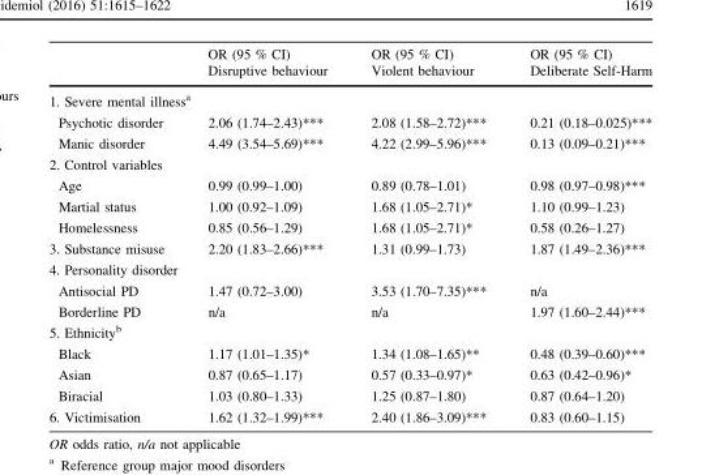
<table><thead><tr><td rowspan="2"></td><td rowspan="2">OR (95 % CI) Disruptive behaviour</td><td rowspan="2">OR (95 % CI) Violent behaviour</td><td rowspan="2">OR (95 % CI) Deliberate Self-Harm</td></tr><tr></tr></thead><tbody><tr><td colspan="4">1. Severe mental illness<sup>a</sup></td></tr><tr><td>Psychotic disorder</td><td>2.06 (1.74–2.43)***</td><td>2.08 (1.58–2.72)***</td><td>0.21 (0.18–0.025)***</td></tr><tr><td>Manic disorder</td><td>4.49 (3.54–5.69)***</td><td>4.22 (2.99–5.96)***</td><td>0.13 (0.09–0.21)***</td></tr><tr><td colspan="4">2. Control variables</td></tr><tr><td>Age</td><td>0.99 (0.99–1.00)</td><td>0.89 (0.78–1.01)</td><td>0.98 (0.97–0.98)***</td></tr><tr><td>Martial status</td><td>1.00 (0.92–1.09)</td><td>1.68 (1.05–2.71)*</td><td>1.10 (0.99–1.23)</td></tr><tr><td>Homelessness</td><td>0.85 (0.56–1.29)</td><td>1.68 (1.05–2.71)*</td><td>0.58 (0.26–1.27)</td></tr><tr><td>3. Substance misuse</td><td>2.20 (1.83–2.66)***</td><td>1.31 (0.99–1.73)</td><td>1.87 (1.49–2.36)***</td></tr><tr><td colspan="4">4. Personality disorder</td></tr><tr><td>Antisocial PD</td><td>1.47 (0.72–3.00)</td><td>3.53 (1.70–7.35)***</td><td>n/a</td></tr><tr><td>Borderline PD</td><td>n/a</td><td>n/a</td><td>1.97 (1.60–2.44)***</td></tr><tr><td colspan="4">5. Ethnicity<sup>b</sup></td></tr><tr><td>Black</td><td>1.17 (1.01–1.35)*</td><td>1.34 (1.08–1.65)**</td><td>0.48 (0.39–0.60)***</td></tr><tr><td>Asian</td><td>0.87 (0.65–1.17)</td><td>0.57 (0.33–0.97)*</td><td>0.63 (0.42–0.96)*</td></tr><tr><td>Biracial</td><td>1.03 (0.80–1.33)</td><td>1.25 (0.87–1.80)</td><td>0.87 (0.64–1.20)</td></tr><tr><td>6. Victimisation</td><td>1.62 (1.32–1.99)***</td><td>2.40 (1.86–3.09)***</td><td>0.83 (0.60–1.15)</td></tr></tbody></table>